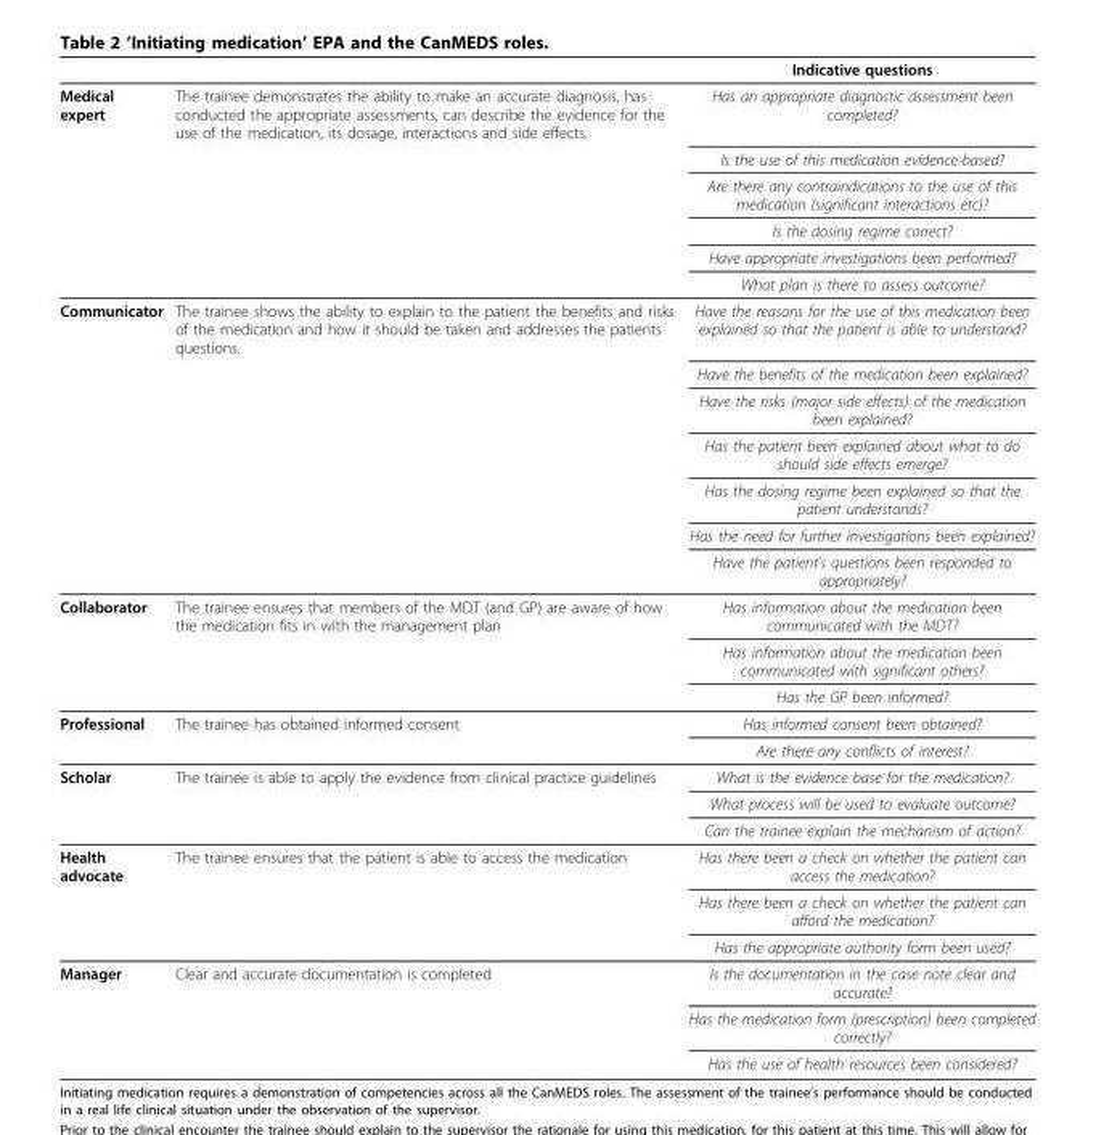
<table><thead><tr><td></td><td></td><td>Indicative questions</td></tr></thead><tbody><tr><td rowspan="6">Medical expert</td><td>The trainee demonstrates the ability to make an accurate diagnosis, has conducted the appropriate assessments, can describe the evidence for the use of the medication, its dosage, interactions and side effects.</td><td>Has an appropriate diagnostic assessment been completed?</td></tr><tr><td></td><td>Is the use of this medication evidence-based?</td></tr><tr><td></td><td>Are there any contraindications to the use of this medication (significant interactions etc)?</td></tr><tr><td></td><td>Is the dosing regime correct?</td></tr><tr><td></td><td>Have appropriate investigations been performed?</td></tr><tr><td></td><td>What plan is there to assess outcome?</td></tr><tr><td rowspan="7">Communicator</td><td>The trainee shows the ability to explain to the patient the benefits and risks of the medication and how it should be taken and addresses the patients questions.</td><td>Have the reasons for the use of this medication been explained so that the patient is able to understand?</td></tr><tr><td></td><td>Have the benefits of the medication been explained?</td></tr><tr><td></td><td>Have the risks (major side effects) of the medication been explained?</td></tr><tr><td></td><td>Has the patient been explained about what to do should side effects emerge?</td></tr><tr><td></td><td>Has the dosing regime been explained so that the patient understands?</td></tr><tr><td></td><td>Has the need for further investigations been explained?</td></tr><tr><td></td><td>Have the patient’s questions been responded to appropriately?</td></tr><tr><td rowspan="3">Collaborator</td><td>The trainee ensures that members of the MDT (and GP) are aware of how the medication fits in with the management plan</td><td>Has information about the medication been communicated with the MDT?</td></tr><tr><td></td><td>Has information about the medication been communicated with significant others?</td></tr><tr><td></td><td>Has the GP been informed?</td></tr><tr><td rowspan="2">Professional</td><td>The trainee has obtained informed consent</td><td>Has informed consent been obtained?</td></tr><tr><td></td><td>Are there any conflicts of interest?</td></tr><tr><td rowspan="3">Scholar</td><td>The trainee is able to apply the evidence from clinical practice guidelines</td><td>What is the evidence base for the medication?</td></tr><tr><td></td><td>What process will be used to evaluate outcome?</td></tr><tr><td></td><td>Can the trainee explain the mechanism of action?</td></tr><tr><td rowspan="3">Health advocate</td><td>The trainee ensures that the patient is able to access the medication</td><td>Has there been a check on whether the patient can access the medication?</td></tr><tr><td></td><td>Has there been a check on whether the patient can afford the medication?</td></tr><tr><td></td><td>Has the appropriate authority form been used?</td></tr><tr><td rowspan="3">Manager</td><td>Clear and accurate documentation is completed</td><td>Is the documentation in the case note clear and accurate?</td></tr><tr><td></td><td>Has the medication form (prescription) been completed correctly?</td></tr><tr><td></td><td>Has the use of health resources been considered?</td></tr></tbody></table>